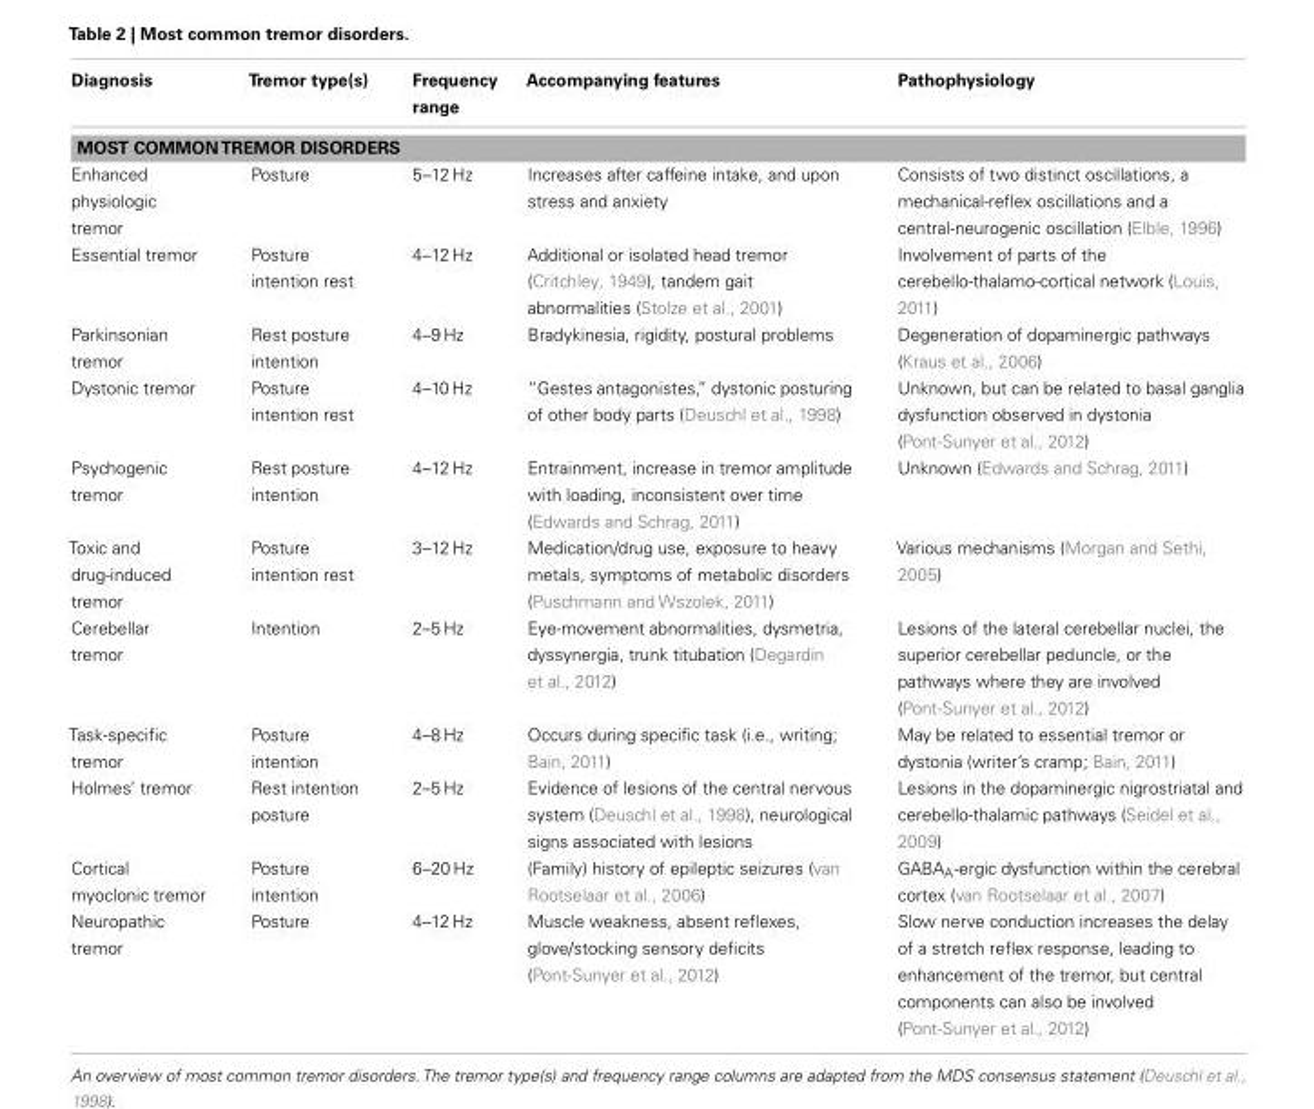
<table><thead><tr><td>Diagnosis</td><td>Tremor type(s)</td><td>Frequency range</td><td>Accompanying features</td><td>Pathophysiology</td></tr></thead><tbody><tr><td colspan="5">MOST COMMONTREMOR DISORDERS</td></tr><tr><td>Enhanced physiologic tremor</td><td>Posture</td><td>5–12 Hz</td><td>Increases after caffeine intake, and upon stress and anxiety</td><td>Consists of two distinct oscillations, a mechanical-reflex oscillations and a central-neurogenic oscillation (Elble, 1996)</td></tr><tr><td>Essential tremor</td><td>Posture intention rest</td><td>4–12 Hz</td><td>Additional or isolated head tremor (Critchley, 1949), tandem gait abnormalities (Stolze et al., 2001)</td><td>Involvement of parts of the cerebello-thalamo-cortical network (Louis, 2011)</td></tr><tr><td>Parkinsonian tremor</td><td>Rest posture intention</td><td>4–9 Hz</td><td>Bradykinesia, rigidity, postural problems</td><td>Degeneration of dopaminergic pathways (Kraus et al., 2006)</td></tr><tr><td>Dystonic tremor</td><td>Posture intention rest</td><td>4–10 Hz</td><td>“Gestes antagonistes,” dystonic posturing of other body parts (Deuschl et al., 1998)</td><td>Unknown, but can be related to basal ganglia dysfunction observed in dystonia (Pont-Sunyer et al., 2012)</td></tr><tr><td>Psychogenic tremor</td><td>Rest posture intention</td><td>4–12 Hz</td><td>Entrainment, increase in tremor amplitude with loading, inconsistent over time (Edwards and Schrag, 2011)</td><td>Unknown (Edwards and Schrag, 2011)</td></tr><tr><td>Toxic and drug-induced tremor</td><td>Posture intention rest</td><td>3–12 Hz</td><td>Medication/drug use, exposure to heavy metals, symptoms of metabolic disorders (Puschmann and Wszolek, 2011)</td><td>Various mechanisms (Morgan and Sethi, 2005)</td></tr><tr><td>Cerebellar tremor</td><td>Intention</td><td>2–5 Hz</td><td>Eye-movement abnormalities, dysmetria, dyssynergia, trunk titubation (Degardin et al., 2012)</td><td>Lesions of the lateral cerebellar nuclei, the superior cerebellar peduncle, or the pathways where they are involved (Pont-Sunyer et al., 2012)</td></tr><tr><td>Task-specific tremor</td><td>Posture intention</td><td>4–8 Hz</td><td>Occurs during specific task (i.e., writing; Bain, 2011)</td><td>May be related to essential tremor or dystonia (writer’s cramp; Bain, 2011)</td></tr><tr><td>Holmes’ tremor</td><td>Rest intention posture</td><td>2–5 Hz</td><td>Evidence of lesions of the central nervous system (Deuschl et al., 1998), neurological signs associated with lesions</td><td>Lesions in the dopaminergic nigrostriatal and cerebello-thalamic pathways (Seidel et al., 2009)</td></tr><tr><td>Cortical myoclonic tremor</td><td>Posture intention</td><td>6–20 Hz</td><td>(Family) history of epileptic seizures (van Rootselaar et al., 2006)</td><td>GABA<sub>A</sub>-ergic dysfunction within the cerebral cortex (van Rootselaar et al., 2007)</td></tr><tr><td>Neuropathic tremor</td><td>Posture</td><td>4–12 Hz</td><td>Muscle weakness, absent reflexes, glove/stocking sensory deficits (Pont-Sunyer et al., 2012)</td><td>Slow nerve conduction increases the delay of a stretch reflex response, leading to enhancement of the tremor, but central components can also be involved (Pont-Sunyer et al., 2012)</td></tr></tbody></table>